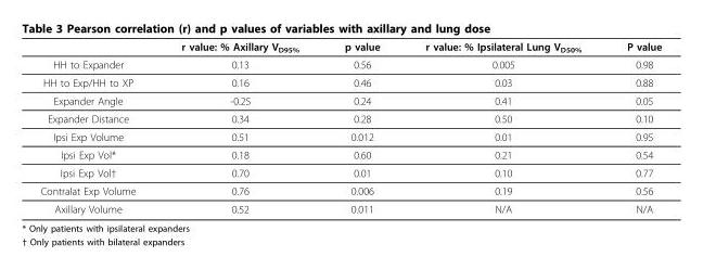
<table><thead><tr><td></td><td>r value: % Axillary V<sub>D95%</sub></td><td>p value</td><td>r value: % Ipsilateral Lung V<sub>D50%</sub></td><td>P value</td></tr></thead><tbody><tr><td>HH to Expander</td><td>0.13</td><td>0.56</td><td>0.005</td><td>0.98</td></tr><tr><td>HH to Exp/HH to XP</td><td>0.16</td><td>0.46</td><td>0.03</td><td>0.88</td></tr><tr><td>Expander Angle</td><td>-0.25</td><td>0.24</td><td>0.41</td><td>0.05</td></tr><tr><td>Expander Distance</td><td>0.34</td><td>0.28</td><td>0.50</td><td>0.10</td></tr><tr><td>Ipsi Exp Volume</td><td>0.51</td><td>0.012</td><td>0.01</td><td>0.95</td></tr><tr><td>Ipsi Exp Vol*</td><td>0.18</td><td>0.60</td><td>0.21</td><td>0.54</td></tr><tr><td>Ipsi Exp Vol†</td><td>0.70</td><td>0.01</td><td>0.10</td><td>0.77</td></tr><tr><td>Contralat Exp Volume</td><td>0.76</td><td>0.006</td><td>0.19</td><td>0.56</td></tr><tr><td>Axillary Volume</td><td>0.52</td><td>0.011</td><td>N/A</td><td>N/A</td></tr></tbody></table>